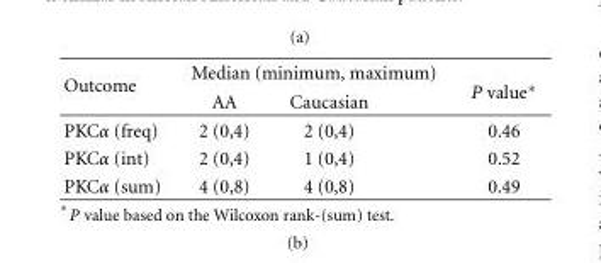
<table><thead><tr><td rowspan="2">Outcome</td><td colspan="2">Median (minimum, maximum)</td><td rowspan="2">P value∗</td></tr><tr><td>AA</td><td>Caucasian</td></tr></thead><tbody><tr><td>PKCα (freq)</td><td>2 (0,4)</td><td>2 (0,4)</td><td>0.46</td></tr><tr><td>PKCα (int)</td><td>2 (0,4)</td><td>1 (0,4)</td><td>0.52</td></tr><tr><td>PKCα (sum)</td><td>4 (0,8)</td><td>4 (0,8)</td><td>0.49</td></tr></tbody></table>